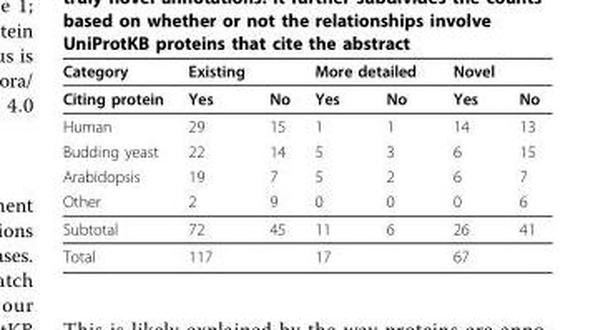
<table><thead><tr><td rowspan="2">Category Citing protein</td><td rowspan="2">Existing Yes</td><td rowspan="2">No</td><td colspan="2">More detailed</td><td rowspan="2">Novel Yes</td><td rowspan="2">No</td></tr><tr><td>Yes</td><td>No</td></tr></thead><tbody><tr><td>Human</td><td>29</td><td>15</td><td>1</td><td>1</td><td>14</td><td>13</td></tr><tr><td>Budding yeast</td><td>22</td><td>14</td><td>5</td><td>3</td><td>6</td><td>15</td></tr><tr><td>Arabidopsis</td><td>19</td><td>7</td><td>5</td><td>2</td><td>6</td><td>7</td></tr><tr><td>Other</td><td>2</td><td>9</td><td>0</td><td>0</td><td>0</td><td>6</td></tr><tr><td>Subtotal</td><td>72</td><td>45</td><td>11</td><td>6</td><td>26</td><td>41</td></tr><tr><td>Total</td><td>117</td><td></td><td>17</td><td></td><td>67</td><td></td></tr></tbody></table>